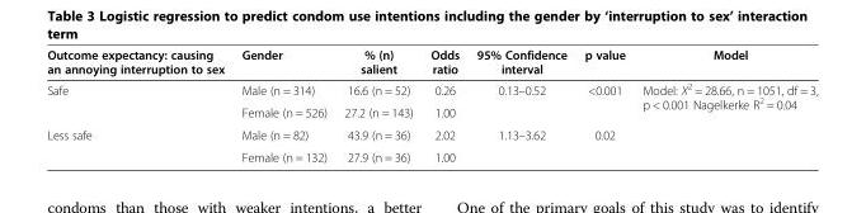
<table><thead><tr><td>Outcome expectancy: causing an annoying interruption to sex</td><td>Gender</td><td>% (n) salient</td><td>Odds ratio</td><td>95% Confidence interval</td><td>p value</td><td>Model</td></tr></thead><tbody><tr><td rowspan="2">Safe</td><td>Male (n = 314)</td><td>16.6 (n = 52)</td><td>0.26</td><td>0.13–0.52</td><td>&lt;0.001</td><td rowspan="2">Model: X<sup>2</sup> = 28.66, n = 1051, df = 3, p &lt; 0.001 Nagelkerke R<sup>2</sup> = 0.04</td></tr><tr><td>Female (n = 526)</td><td>27.2 (n = 143)</td><td>1.00</td><td></td><td></td></tr><tr><td rowspan="2">Less safe</td><td>Male (n = 82)</td><td>43.9 (n = 36)</td><td>2.02</td><td>1.13–3.62</td><td>0.02</td><td rowspan="2"></td></tr><tr><td>Female (n = 132)</td><td>27.9 (n = 36)</td><td>1.00</td><td></td><td></td></tr></tbody></table>